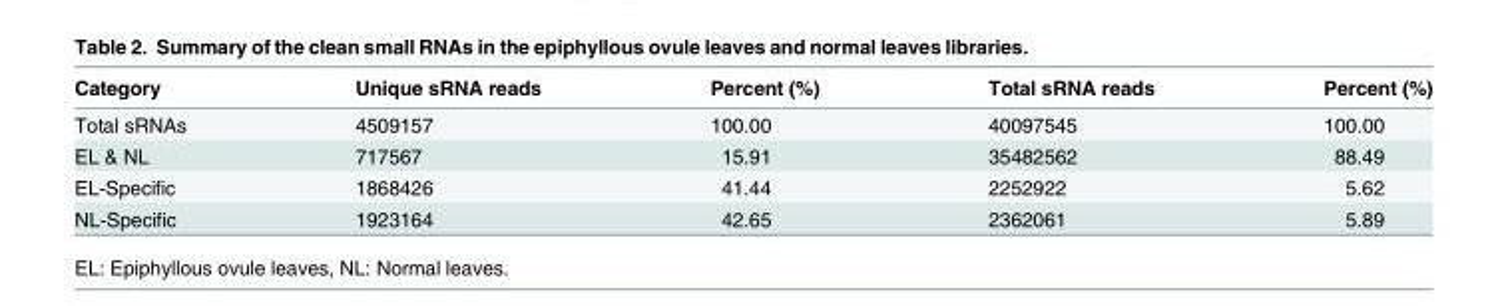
<table><thead><tr><td>Category</td><td>Unique sRNA reads</td><td>Percent (%)</td><td>Total sRNA reads</td><td>Percent (%)</td></tr></thead><tbody><tr><td>Total sRNAs</td><td>4509157</td><td>100.00</td><td>40097545</td><td>100.00</td></tr><tr><td>EL &amp; NL</td><td>717567</td><td>15.91</td><td>35482562</td><td>88.49</td></tr><tr><td>EL-Specific</td><td>1868426</td><td>41.44</td><td>2252922</td><td>5.62</td></tr><tr><td>NL-Specific</td><td>1923164</td><td>42.65</td><td>2362061</td><td>5.89</td></tr></tbody></table>